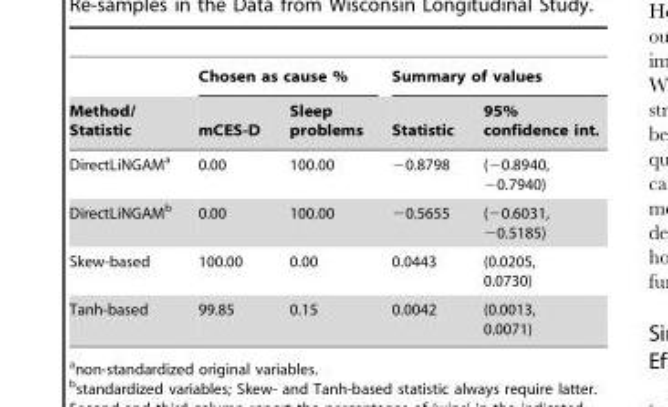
<table><thead><tr><td rowspan="2">Method/ Statistic</td><td colspan="2">Chosen as cause %</td><td colspan="2">Summary of values</td></tr><tr><td>mCES-D</td><td>Sleep problems</td><td>Statistic</td><td>95% confidence int.</td></tr></thead><tbody><tr><td>DirectLiNGAM<sup>a</sup></td><td>0.00</td><td>100.00</td><td>−0.8798</td><td>(−0.8940, −0.7940)</td></tr><tr><td>DirectLiNGAM<sup>b</sup></td><td>0.00</td><td>100.00</td><td>−0.5655</td><td>(−0.6031, −0.5185)</td></tr><tr><td>Skew-based</td><td>100.00</td><td>0.00</td><td>0.0443</td><td>(0.0205, 0.0730)</td></tr><tr><td>Tanh-based</td><td>99.85</td><td>0.15</td><td>0.0042</td><td>(0.0013, 0.0071)</td></tr></tbody></table>